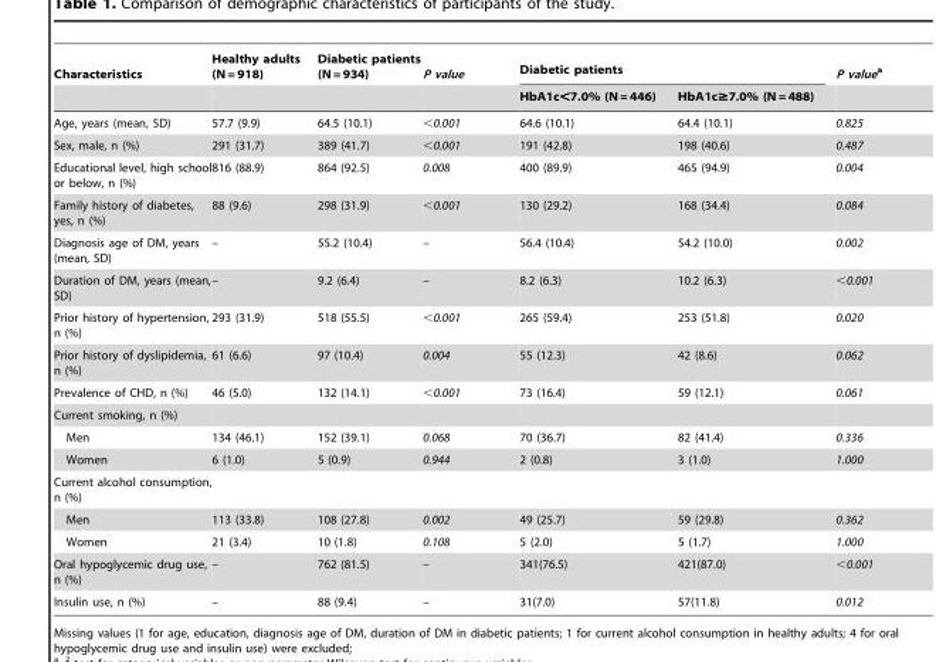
<table><thead><tr><td rowspan="2">Characteristics</td><td rowspan="2">Healthy adults (N = 918)</td><td rowspan="2">Diabetic patients (N = 934)</td><td rowspan="2">P value</td><td colspan="2">Diabetic patients</td><td rowspan="2">P valuea</td></tr><tr><td>HbA1c&lt;7.0% (N = 446)</td><td>HbA1c≥7.0% (N = 488)</td></tr></thead><tbody><tr><td>Age, years (mean, SD)</td><td>57.7 (9.9)</td><td>64.5 (10.1)</td><td>&lt;0.001</td><td>64.6 (10.1)</td><td>64.4 (10.1)</td><td>0.825</td></tr><tr><td>Sex, male, n (%)</td><td>291 (31.7)</td><td>389 (41.7)</td><td>&lt;0.001</td><td>191 (42.8)</td><td>198 (40.6)</td><td>0.487</td></tr><tr><td>Educational level, high school or below, n (%)</td><td>816 (88.9)</td><td>864 (92.5)</td><td>0.008</td><td>400 (89.9)</td><td>465 (94.9)</td><td>0.004</td></tr><tr><td>Family history of diabetes, yes, n (%)</td><td>88 (9.6)</td><td>298 (31.9)</td><td>&lt;0.001</td><td>130 (29.2)</td><td>168 (34.4)</td><td>0.084</td></tr><tr><td>Diagnosis age of DM, years (mean, SD)</td><td>–</td><td>55.2 (10.4)</td><td>–</td><td>56.4 (10.4)</td><td>54.2 (10.0)</td><td>0.002</td></tr><tr><td>Duration of DM, years (mean, SD)</td><td>–</td><td>9.2 (6.4)</td><td>–</td><td>8.2 (6.3)</td><td>10.2 (6.3)</td><td>&lt;0.001</td></tr><tr><td>Prior history of hypertension, n (%)</td><td>293 (31.9)</td><td>518 (55.5)</td><td>&lt;0.001</td><td>265 (59.4)</td><td>253 (51.8)</td><td>0.020</td></tr><tr><td>Prior history of dyslipidemia, n (%)</td><td>61 (6.6)</td><td>97 (10.4)</td><td>0.004</td><td>55 (12.3)</td><td>42 (8.6)</td><td>0.062</td></tr><tr><td>Prevalence of CHD, n (%)</td><td>46 (5.0)</td><td>132 (14.1)</td><td>&lt;0.001</td><td>73 (16.4)</td><td>59 (12.1)</td><td>0.061</td></tr><tr><td colspan="7">Current smoking, n (%)</td></tr><tr><td>Men</td><td>134 (46.1)</td><td>152 (39.1)</td><td>0.068</td><td>70 (36.7)</td><td>82 (41.4)</td><td>0.336</td></tr><tr><td>Women</td><td>6 (1.0)</td><td>5 (0.9)</td><td>0.944</td><td>2 (0.8)</td><td>3 (1.0)</td><td>1.000</td></tr><tr><td colspan="7">Current alcohol consumption, n (%)</td></tr><tr><td>Men</td><td>113 (33.8)</td><td>108 (27.8)</td><td>0.002</td><td>49 (25.7)</td><td>59 (29.8)</td><td>0.362</td></tr><tr><td>Women</td><td>21 (3.4)</td><td>10 (1.8)</td><td>0.108</td><td>5 (2.0)</td><td>5 (1.7)</td><td>1.000</td></tr><tr><td>Oral hypoglycemic drug use, n (%)</td><td>–</td><td>762 (81.5)</td><td>–</td><td>341(76.5)</td><td>421(87.0)</td><td>&lt;0.001</td></tr><tr><td>Insulin use, n (%)</td><td>–</td><td>88 (9.4)</td><td>–</td><td>31(7.0)</td><td>57(11.8)</td><td>0.012</td></tr></tbody></table>